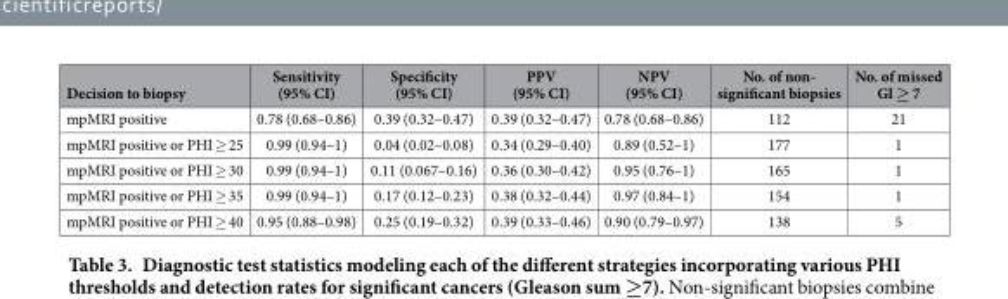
<table><thead><tr><td>Decision to biopsy</td><td>Sensitivity (95% CI)</td><td>Specificity (95% CI)</td><td>PPV (95% CI)</td><td>NPV (95% CI)</td><td>No. of non- significant biopsies</td><td>No. of missed Gl ≥ 7</td></tr></thead><tbody><tr><td>mpMRI positive</td><td>0.78 (0.68–0.86)</td><td>0.39 (0.32–0.47)</td><td>0.39 (0.32–0.47)</td><td>0.78 (0.68–0.86)</td><td>112</td><td>21</td></tr><tr><td>mpMRI positive or PHI ≥ 25</td><td>0.99 (0.94–1)</td><td>0.04 (0.02–0.08)</td><td>0.34 (0.29–0.40)</td><td>0.89 (0.52–1)</td><td>177</td><td>1</td></tr><tr><td>mpMRI positive or PHI ≥ 30</td><td>0.99 (0.94–1)</td><td>0.11 (0.067–0.16)</td><td>0.36 (0.30–0.42)</td><td>0.95 (0.76–1)</td><td>165</td><td>1</td></tr><tr><td>mpMRI positive or PHI ≥ 35</td><td>0.99 (0.94–1)</td><td>0.17 (0.12–0.23)</td><td>0.38 (0.32–0.44)</td><td>0.97 (0.84–1)</td><td>154</td><td>1</td></tr><tr><td>mpMRI positive or PHI ≥ 40</td><td>0.95 (0.88–0.98)</td><td>0.25 (0.19–0.32)</td><td>0.39 (0.33–0.46)</td><td>0.90 (0.79–0.97)</td><td>138</td><td>5</td></tr></tbody></table>